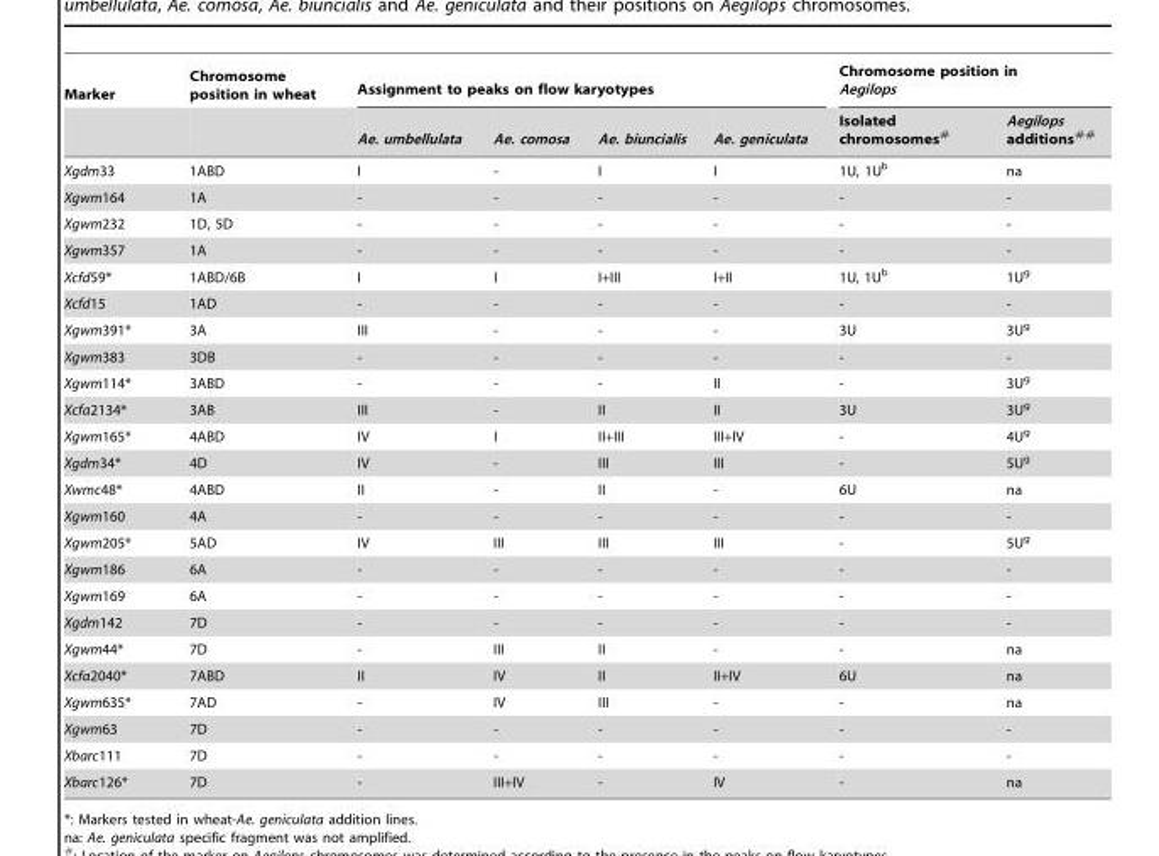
<table><thead><tr><td rowspan="2">Marker</td><td rowspan="2">Chromosome position in wheat</td><td colspan="4">Assignment to peaks on flow karyotypes</td><td colspan="2">Chromosome position in Aegilops</td></tr><tr><td>Ae. umbellulata</td><td>Ae. comosa</td><td>Ae. biuncialis</td><td>Ae. geniculata</td><td>Isolated chromosomes#</td><td>Aegilops additions##</td></tr></thead><tbody><tr><td>Xgdm33</td><td>1ABD</td><td>I</td><td>-</td><td>I</td><td>I</td><td>1U, 1U<sup>b</sup></td><td>na</td></tr><tr><td>Xgwm164</td><td>1A</td><td>-</td><td>-</td><td>-</td><td>-</td><td>-</td><td>-</td></tr><tr><td>Xgwm232</td><td>1D, 5D</td><td>-</td><td>-</td><td>-</td><td>-</td><td>-</td><td>-</td></tr><tr><td>Xgwm357</td><td>1A</td><td>-</td><td>-</td><td>-</td><td>-</td><td>-</td><td>-</td></tr><tr><td>Xcfd59*</td><td>1ABD/6B</td><td>I</td><td>I</td><td>I+III</td><td>I+II</td><td>1U, 1U<sup>b</sup></td><td>1U<sup>g</sup></td></tr><tr><td>Xcfd15</td><td>1AD</td><td>-</td><td>-</td><td>-</td><td>-</td><td>-</td><td>-</td></tr><tr><td>Xgwm391*</td><td>3A</td><td>III</td><td>-</td><td>-</td><td>-</td><td>3U</td><td>3U<sup>g</sup></td></tr><tr><td>Xgwm383</td><td>3DB</td><td>-</td><td>-</td><td>-</td><td>-</td><td>-</td><td>-</td></tr><tr><td>Xgwm114*</td><td>3ABD</td><td>-</td><td>-</td><td>-</td><td>II</td><td>-</td><td>3U<sup>g</sup></td></tr><tr><td>Xcfa2134*</td><td>3AB</td><td>III</td><td>-</td><td>II</td><td>II</td><td>3U</td><td>3U<sup>g</sup></td></tr><tr><td>Xgwm165*</td><td>4ABD</td><td>IV</td><td>I</td><td>II+III</td><td>III+IV</td><td>-</td><td>4U<sup>g</sup></td></tr><tr><td>Xgdm34*</td><td>4D</td><td>IV</td><td>-</td><td>III</td><td>III</td><td>-</td><td>5U<sup>g</sup></td></tr><tr><td>Xwmc48*</td><td>4ABD</td><td>II</td><td>-</td><td>II</td><td>-</td><td>6U</td><td>na</td></tr><tr><td>Xgwm160</td><td>4A</td><td>-</td><td>-</td><td>-</td><td>-</td><td>-</td><td>-</td></tr><tr><td>Xgwm205*</td><td>5AD</td><td>IV</td><td>III</td><td>III</td><td>III</td><td>-</td><td>5U<sup>g</sup></td></tr><tr><td>Xgwm186</td><td>6A</td><td>-</td><td>-</td><td>-</td><td>-</td><td>-</td><td>-</td></tr><tr><td>Xgwm169</td><td>6A</td><td>-</td><td>-</td><td>-</td><td>-</td><td>-</td><td>-</td></tr><tr><td>Xgdm142</td><td>7D</td><td>-</td><td>-</td><td>-</td><td>-</td><td>-</td><td>-</td></tr><tr><td>Xgwm44*</td><td>7D</td><td>-</td><td>III</td><td>II</td><td>-</td><td>-</td><td>na</td></tr><tr><td>Xcfa2040*</td><td>7ABD</td><td>II</td><td>IV</td><td>II</td><td>II+IV</td><td>6U</td><td>na</td></tr><tr><td>Xgwm635*</td><td>7AD</td><td>-</td><td>IV</td><td>III</td><td>-</td><td>-</td><td>na</td></tr><tr><td>Xgwm63</td><td>7D</td><td>-</td><td>-</td><td>-</td><td>-</td><td>-</td><td>-</td></tr><tr><td>Xbarc111</td><td>7D</td><td>-</td><td>-</td><td>-</td><td>-</td><td>-</td><td>-</td></tr><tr><td>Xbarc126*</td><td>7D</td><td>-</td><td>III+IV</td><td>-</td><td>IV</td><td>-</td><td>na</td></tr></tbody></table>